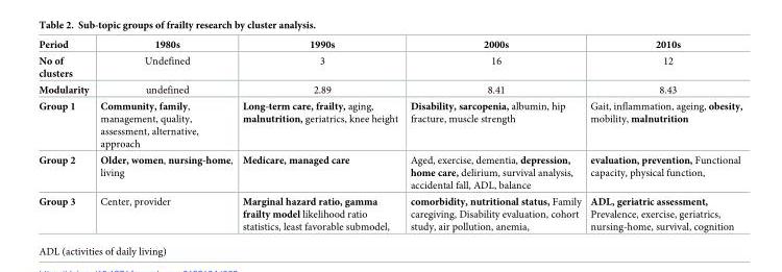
<table><thead><tr><td>Period</td><td>1980s</td><td>1990s</td><td>2000s</td><td>2010s</td></tr></thead><tbody><tr><td>No of clusters</td><td>Undefined</td><td>3</td><td>16</td><td>12</td></tr><tr><td>Modularity</td><td>undefined</td><td>2.89</td><td>8.41</td><td>8.43</td></tr><tr><td>Group 1</td><td>Community, family, management, quality, assessment, alternative, approach</td><td>Long-term care, frailty, aging, malnutrition, geriatrics, knee height</td><td>Disability, sarcopenia, albumin, hip fracture, muscle strength</td><td>Gait, inflammation, ageing, obesity, mobility, malnutrition</td></tr><tr><td>Group 2</td><td>Older, women, nursing-home, living</td><td>Medicare, managed care</td><td>Aged, exercise, dementia, depression, home care, delirium, survival analysis, accidental fall, ADL, balance</td><td>evaluation, prevention, Functional capacity, physical function,</td></tr><tr><td>Group 3</td><td>Center, provider</td><td>Marginal hazard ratio, gamma frailty model likelihood ratio statistics, least favorable submodel,</td><td>comorbidity, nutritional status, Family caregiving, Disability evaluation, cohort study, air pollution, anemia,</td><td>ADL, geriatric assessment, Prevalence, exercise, geriatrics, nursing-home, survival, cognition</td></tr></tbody></table>